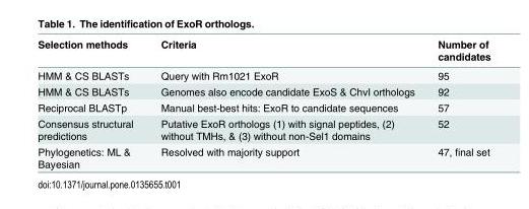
<table><thead><tr><td>Selection methods</td><td>Criteria</td><td>Number of candidates</td></tr></thead><tbody><tr><td>HMM &amp; CS BLASTs</td><td>Query with Rm1021 ExoR</td><td>95</td></tr><tr><td>HMM &amp; CS BLASTs</td><td>Genomes also encode candidate ExoS &amp; ChvI orthologs</td><td>92</td></tr><tr><td>Reciprocal BLASTp</td><td>Manual best-best hits: ExoR to candidate sequences</td><td>57</td></tr><tr><td>Consensus structural predictions</td><td>Putative ExoR orthologs (1) with signal peptides, (2) without TMHs, &amp; (3) without non-Sel1 domains</td><td>52</td></tr><tr><td>Phylogenetics: ML &amp; Bayesian</td><td>Resolved with majority support</td><td>47, final set</td></tr></tbody></table>